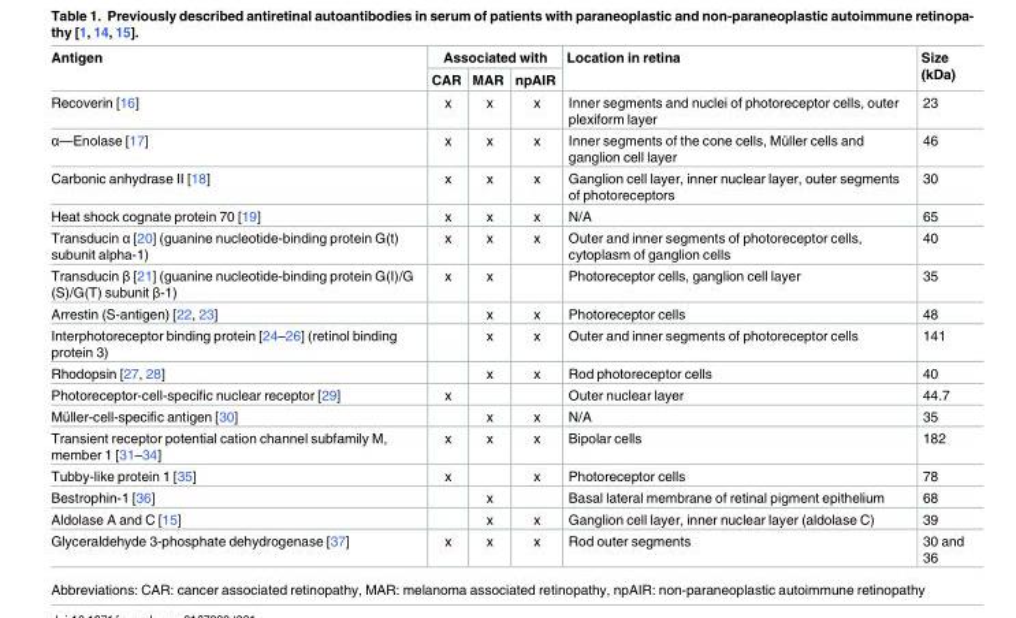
<table><thead><tr><td rowspan="2">Antigen</td><td colspan="3">Associated with</td><td rowspan="2">Location in retina</td><td rowspan="2">Size (kDa)</td></tr><tr><td>CAR</td><td>MAR</td><td>npAIR</td></tr></thead><tbody><tr><td>Recoverin [16]</td><td>x</td><td>x</td><td>x</td><td>Inner segments and nuclei of photoreceptor cells, outer plexiform layer</td><td>23</td></tr><tr><td>α—Enolase [17]</td><td>x</td><td>x</td><td>x</td><td>Inner segments of the cone cells, Mu¨ller cells and ganglion cell layer</td><td>46</td></tr><tr><td>Carbonic anhydrase II [18]</td><td>x</td><td>x</td><td>x</td><td>Ganglion cell layer, inner nuclear layer, outer segments of photoreceptors</td><td>30</td></tr><tr><td>Heat shock cognate protein 70 [19]</td><td>x</td><td>x</td><td>x</td><td>N/A</td><td>65</td></tr><tr><td>Transducin α [20] (guanine nucleotide-binding protein G(t) subunit alpha-1)</td><td>x</td><td>x</td><td>x</td><td>Outer and inner segments of photoreceptor cells, cytoplasm of ganglion cells</td><td>40</td></tr><tr><td>Transducin β [21] (guanine nucleotide-binding protein G(I)/G (S)/G(T) subunit β-1)</td><td>x</td><td>x</td><td></td><td>Photoreceptor cells, ganglion cell layer</td><td>35</td></tr><tr><td>Arrestin (S-antigen) [22, 23]</td><td></td><td>x</td><td>x</td><td>Photoreceptor cells</td><td>48</td></tr><tr><td>Interphotoreceptor binding protein [24–26] (retinol binding protein 3)</td><td></td><td>x</td><td>x</td><td>Outer and inner segments of photoreceptor cells</td><td>141</td></tr><tr><td>Rhodopsin [27, 28]</td><td></td><td>x</td><td>x</td><td>Rod photoreceptor cells</td><td>40</td></tr><tr><td>Photoreceptor-cell-specific nuclear receptor [29]</td><td>x</td><td></td><td></td><td>Outer nuclear layer</td><td>44.7</td></tr><tr><td>Mu¨ller-cell-specific antigen [30]</td><td></td><td>x</td><td>x</td><td>N/A</td><td>35</td></tr><tr><td>Transient receptor potential cation channel subfamily M, member 1 [31–34]</td><td>x</td><td>x</td><td>x</td><td>Bipolar cells</td><td>182</td></tr><tr><td>Tubby-like protein 1 [35]</td><td>x</td><td></td><td>x</td><td>Photoreceptor cells</td><td>78</td></tr><tr><td>Bestrophin-1 [36]</td><td></td><td>x</td><td></td><td>Basal lateral membrane of retinal pigment epithelium</td><td>68</td></tr><tr><td>Aldolase A and C [15]</td><td></td><td>x</td><td>x</td><td>Ganglion cell layer, inner nuclear layer (aldolase C)</td><td>39</td></tr><tr><td>Glyceraldehyde 3-phosphate dehydrogenase [37]</td><td>x</td><td>x</td><td>x</td><td>Rod outer segments</td><td>30 and 36</td></tr></tbody></table>